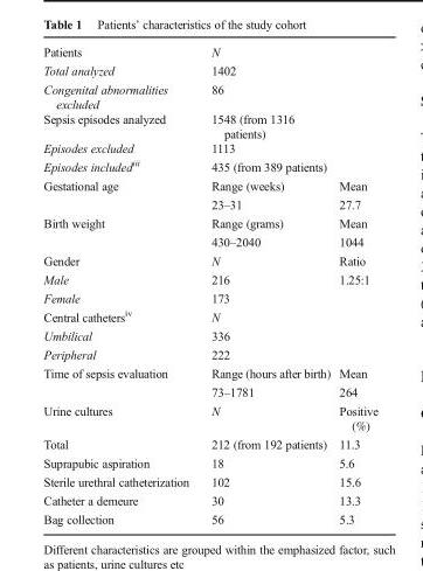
<table><tbody><tr><td>Patients</td><td>N</td><td></td></tr><tr><td>Total analyzed</td><td>1402</td><td></td></tr><tr><td>Congenital abnormalities excluded</td><td>86</td><td></td></tr><tr><td>Sepsis episodes analyzed</td><td>1548 (from 1316 patients)</td><td></td></tr><tr><td>Episodes excluded</td><td>1113</td><td></td></tr><tr><td>Episodes included<sup>iii</sup></td><td>435 (from 389 patients)</td><td></td></tr><tr><td rowspan="2">Gestational age</td><td>Range (weeks)</td><td>Mean</td></tr><tr><td>23–31</td><td>27.7</td></tr><tr><td rowspan="2">Birth weight</td><td>Range (grams)</td><td>Mean</td></tr><tr><td>430–2040</td><td>1044</td></tr><tr><td>Gender</td><td>N</td><td>Ratio</td></tr><tr><td>Male</td><td>216</td><td>1.25:1</td></tr><tr><td>Female</td><td>173</td><td></td></tr><tr><td>Central catheters<sup>iv</sup></td><td>N</td><td></td></tr><tr><td>Umbilical</td><td>336</td><td></td></tr><tr><td>Peripheral</td><td>222</td><td></td></tr><tr><td rowspan="2">Time of sepsis evaluation</td><td>Range (hours after birth)</td><td>Mean</td></tr><tr><td>73–1781</td><td>264</td></tr><tr><td>Urine cultures</td><td>N</td><td>Positive (%)</td></tr><tr><td>Total</td><td>212 (from 192 patients)</td><td>11.3</td></tr><tr><td>Suprapubic aspiration</td><td>18</td><td>5.6</td></tr><tr><td>Sterile urethral catheterization</td><td>102</td><td>15.6</td></tr><tr><td>Catheter a demeure</td><td>30</td><td>13.3</td></tr><tr><td>Bag collection</td><td>56</td><td>5.3</td></tr></tbody></table>